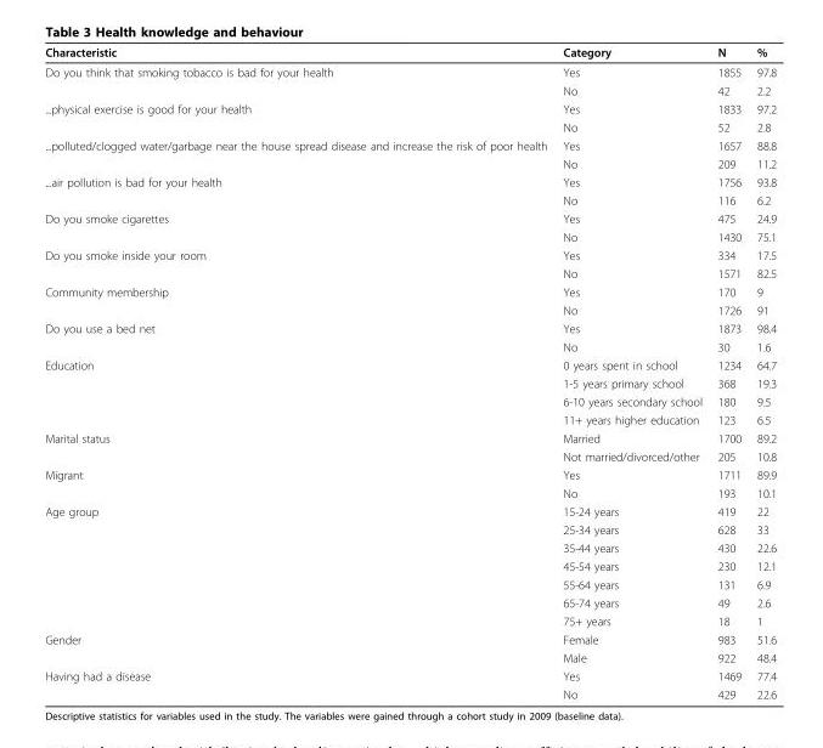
<table><thead><tr><td>Characteristic</td><td>Category</td><td>N</td><td>%</td></tr></thead><tbody><tr><td rowspan="2">Do you think that smoking tobacco is bad for your health</td><td>Yes</td><td>1855</td><td>97.8</td></tr><tr><td>No</td><td>42</td><td>2.2</td></tr><tr><td rowspan="2">...physical exercise is good for your health</td><td>Yes</td><td>1833</td><td>97.2</td></tr><tr><td>No</td><td>52</td><td>2.8</td></tr><tr><td rowspan="2">...polluted/clogged water/garbage near the house spread disease and increase the risk of poor health</td><td>Yes</td><td>1657</td><td>88.8</td></tr><tr><td>No</td><td>209</td><td>11.2</td></tr><tr><td rowspan="2">...air pollution is bad for your health</td><td>Yes</td><td>1756</td><td>93.8</td></tr><tr><td>No</td><td>116</td><td>6.2</td></tr><tr><td rowspan="2">Do you smoke cigarettes</td><td>Yes</td><td>475</td><td>24.9</td></tr><tr><td>No</td><td>1430</td><td>75.1</td></tr><tr><td rowspan="2">Do you smoke inside your room</td><td>Yes</td><td>334</td><td>17.5</td></tr><tr><td>No</td><td>1571</td><td>82.5</td></tr><tr><td rowspan="2">Community membership</td><td>Yes</td><td>170</td><td>9</td></tr><tr><td>No</td><td>1726</td><td>91</td></tr><tr><td rowspan="2">Do you use a bed net</td><td>Yes</td><td>1873</td><td>98.4</td></tr><tr><td>No</td><td>30</td><td>1.6</td></tr><tr><td rowspan="4">Education</td><td>0 years spent in school</td><td>1234</td><td>64.7</td></tr><tr><td>1-5 years primary school</td><td>368</td><td>19.3</td></tr><tr><td>6-10 years secondary school</td><td>180</td><td>9.5</td></tr><tr><td>11+ years higher education</td><td>123</td><td>6.5</td></tr><tr><td rowspan="2">Marital status</td><td>Married</td><td>1700</td><td>89.2</td></tr><tr><td>Not married/divorced/other</td><td>205</td><td>10.8</td></tr><tr><td rowspan="2">Migrant</td><td>Yes</td><td>1711</td><td>89.9</td></tr><tr><td>No</td><td>193</td><td>10.1</td></tr><tr><td rowspan="7">Age group</td><td>15-24 years</td><td>419</td><td>22</td></tr><tr><td>25-34 years</td><td>628</td><td>33</td></tr><tr><td>35-44 years</td><td>430</td><td>22.6</td></tr><tr><td>45-54 years</td><td>230</td><td>12.1</td></tr><tr><td>55-64 years</td><td>131</td><td>6.9</td></tr><tr><td>65-74 years</td><td>49</td><td>2.6</td></tr><tr><td>75+ years</td><td>18</td><td>1</td></tr><tr><td rowspan="2">Gender</td><td>Female</td><td>983</td><td>51.6</td></tr><tr><td>Male</td><td>922</td><td>48.4</td></tr><tr><td rowspan="2">Having had a disease</td><td>Yes</td><td>1469</td><td>77.4</td></tr><tr><td>No</td><td>429</td><td>22.6</td></tr></tbody></table>